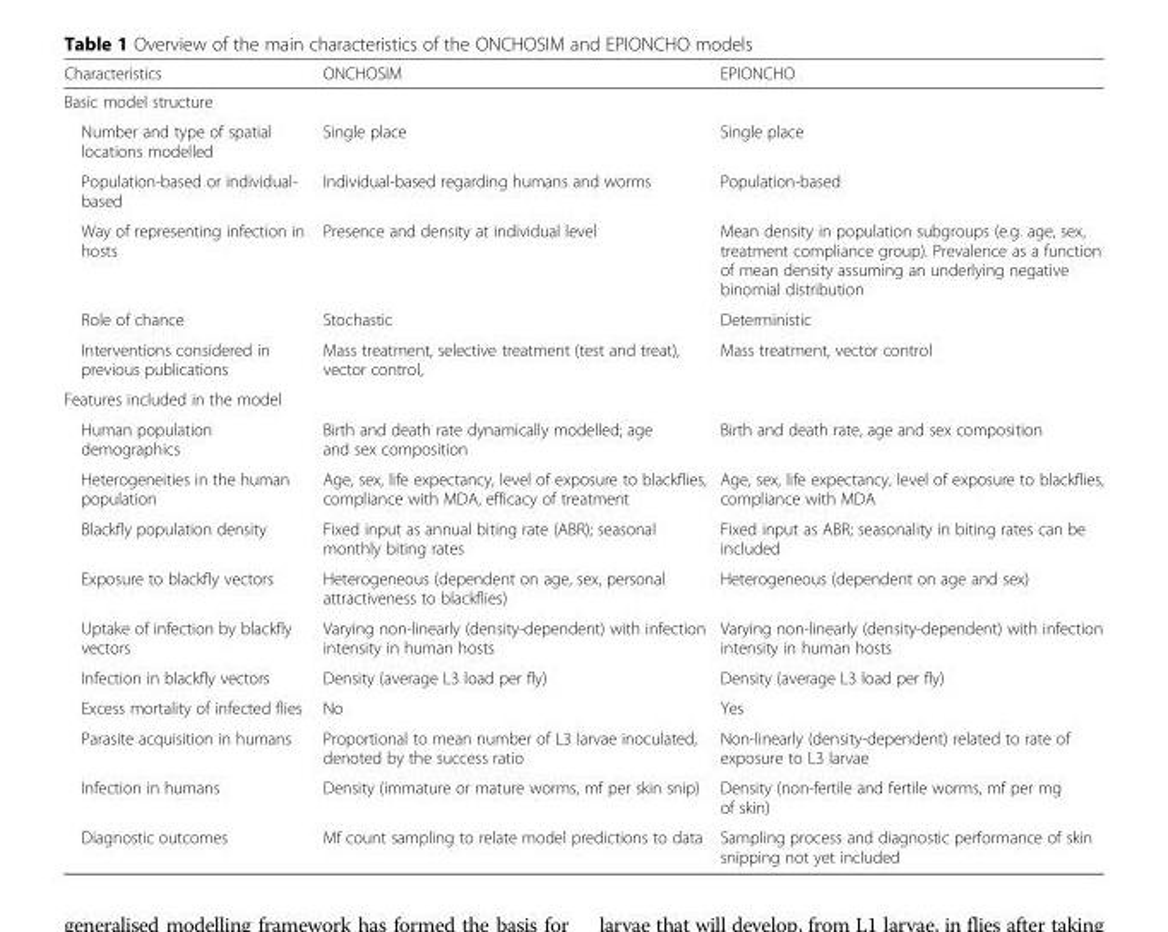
<table><thead><tr><td>Characteristics</td><td>ONCHOSIM</td><td>EPIONCHO</td></tr></thead><tbody><tr><td colspan="3">Basic model structure</td></tr><tr><td>Number and type of spatial locations modelled</td><td>Single place</td><td>Single place</td></tr><tr><td>Population-based or individual- based</td><td>Individual-based regarding humans and worms</td><td>Population-based</td></tr><tr><td>Way of representing infection in hosts</td><td>Presence and density at individual level</td><td>Mean density in population subgroups (e.g. age, sex, treatment compliance group). Prevalence as a function of mean density assuming an underlying negative binomial distribution</td></tr><tr><td>Role of chance</td><td>Stochastic</td><td>Deterministic</td></tr><tr><td>Interventions considered in previous publications</td><td>Mass treatment, selective treatment (test and treat), vector control,</td><td>Mass treatment, vector control</td></tr><tr><td colspan="3">Features included in the model</td></tr><tr><td>Human population demographics</td><td>Birth and death rate dynamically modelled; age and sex composition</td><td>Birth and death rate, age and sex composition</td></tr><tr><td>Heterogeneities in the human population</td><td>Age, sex, life expectancy, level of exposure to blackflies, compliance with MDA, efficacy of treatment</td><td>Age, sex, life expectancy, level of exposure to blackflies, compliance with MDA</td></tr><tr><td>Blackfly population density</td><td>Fixed input as annual biting rate (ABR); seasonal monthly biting rates</td><td>Fixed input as ABR; seasonality in biting rates can be included</td></tr><tr><td>Exposure to blackfly vectors</td><td>Heterogeneous (dependent on age, sex, personal attractiveness to blackflies)</td><td>Heterogeneous (dependent on age and sex)</td></tr><tr><td>Uptake of infection by blackfly vectors</td><td>Varying non-linearly (density-dependent) with infection intensity in human hosts</td><td>Varying non-linearly (density-dependent) with infection intensity in human hosts</td></tr><tr><td>Infection in blackfly vectors</td><td>Density (average L3 load per fly)</td><td>Density (average L3 load per fly)</td></tr><tr><td>Excess mortality of infected flies</td><td>No</td><td>Yes</td></tr><tr><td>Parasite acquisition in humans</td><td>Proportional to mean number of L3 larvae inoculated, denoted by the success ratio</td><td>Non-linearly (density-dependent) related to rate of exposure to L3 larvae</td></tr><tr><td>Infection in humans</td><td>Density (immature or mature worms, mf per skin snip)</td><td>Density (non-fertile and fertile worms, mf per mg of skin)</td></tr><tr><td>Diagnostic outcomes</td><td>Mf count sampling to relate model predictions to data</td><td>Sampling process and diagnostic performance of skin snipping not yet included</td></tr></tbody></table>